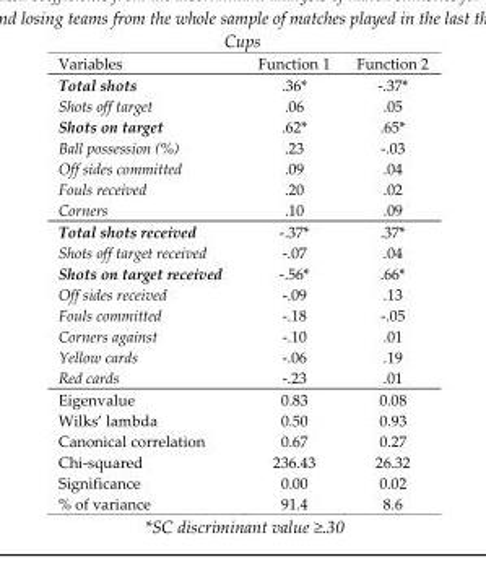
<table><thead><tr><td>Variables</td><td>Function 1</td><td>Function 2</td></tr></thead><tbody><tr><td>Total shots</td><td>.36*</td><td>-.37*</td></tr><tr><td>Shots off target</td><td>.06</td><td>.05</td></tr><tr><td>Shots on target</td><td>.62*</td><td>.65*</td></tr><tr><td>Ball possession (%)</td><td>.23</td><td>-.03</td></tr><tr><td>Off sides committed</td><td>.09</td><td>.04</td></tr><tr><td>Fouls received</td><td>.20</td><td>.02</td></tr><tr><td>Corners</td><td>.10</td><td>.09</td></tr><tr><td>Total shots received</td><td>-.37*</td><td>.37*</td></tr><tr><td>Shots off target received</td><td>-.07</td><td>.04</td></tr><tr><td>Shots on target received</td><td>-.56*</td><td>.66*</td></tr><tr><td>Off sides received</td><td>-.09</td><td>.13</td></tr><tr><td>Fouls committed</td><td>-.18</td><td>-.05</td></tr><tr><td>Corners against</td><td>-.10</td><td>.01</td></tr><tr><td>Yellow cards</td><td>-.06</td><td>.19</td></tr><tr><td>Red cards</td><td>-.23</td><td>.01</td></tr><tr><td>Eigenvalue</td><td>0.83</td><td>0.08</td></tr><tr><td>Wilks’ lambda</td><td>0.50</td><td>0.93</td></tr><tr><td>Canonical correlation</td><td>0.67</td><td>0.27</td></tr><tr><td>Chi-squared</td><td>236.43</td><td>26.32</td></tr><tr><td>Significance</td><td>0.00</td><td>0.02</td></tr><tr><td>% of variance</td><td>91.4</td><td>8.6</td></tr></tbody></table>